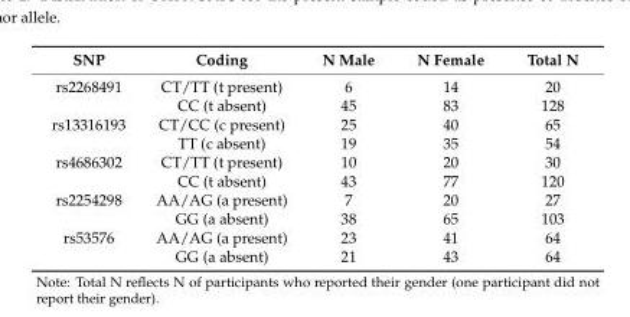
<table><thead><tr><td>SNP</td><td>Coding</td><td>N Male</td><td>N Female</td><td>Total N</td></tr></thead><tbody><tr><td rowspan="2">rs2268491</td><td>CT/TT (t present)</td><td>6</td><td>14</td><td>20</td></tr><tr><td>CC (t absent)</td><td>45</td><td>83</td><td>128</td></tr><tr><td rowspan="2">rs13316193</td><td>CT/CC (c present)</td><td>25</td><td>40</td><td>65</td></tr><tr><td>TT (c absent)</td><td>19</td><td>35</td><td>54</td></tr><tr><td rowspan="2">rs4686302</td><td>CT/TT (t present)</td><td>10</td><td>20</td><td>30</td></tr><tr><td>CC (t absent)</td><td>43</td><td>77</td><td>120</td></tr><tr><td rowspan="2">rs2254298</td><td>AA/AG (a present)</td><td>7</td><td>20</td><td>27</td></tr><tr><td>GG (a absent)</td><td>38</td><td>65</td><td>103</td></tr><tr><td rowspan="2">rs53576</td><td>AA/AG (a present)</td><td>23</td><td>41</td><td>64</td></tr><tr><td>GG (a absent)</td><td>21</td><td>43</td><td>64</td></tr></tbody></table>